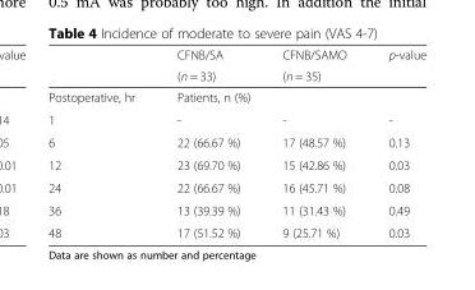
<table><thead><tr><td rowspan="2"></td><td rowspan="2">CFNB/SA (n = 33)</td><td rowspan="2">CFNB/SAMO (n = 35)</td><td rowspan="2">p-value</td></tr><tr></tr></thead><tbody><tr><td>Postoperative, hr</td><td colspan="2">Patients, n (%)</td><td></td></tr><tr><td>1</td><td>-</td><td>-</td><td>-</td></tr><tr><td>6</td><td>22 (66.67 %)</td><td>17 (48.57 %)</td><td>0.13</td></tr><tr><td>12</td><td>23 (69.70 %)</td><td>15 (42.86 %)</td><td>0.03</td></tr><tr><td>24</td><td>22 (66.67 %)</td><td>16 (45.71 %)</td><td>0.08</td></tr><tr><td>36</td><td>13 (39.39 %)</td><td>11 (31.43 %)</td><td>0.49</td></tr><tr><td>48</td><td>17 (51.52 %)</td><td>9 (25.71 %)</td><td>0.03</td></tr></tbody></table>